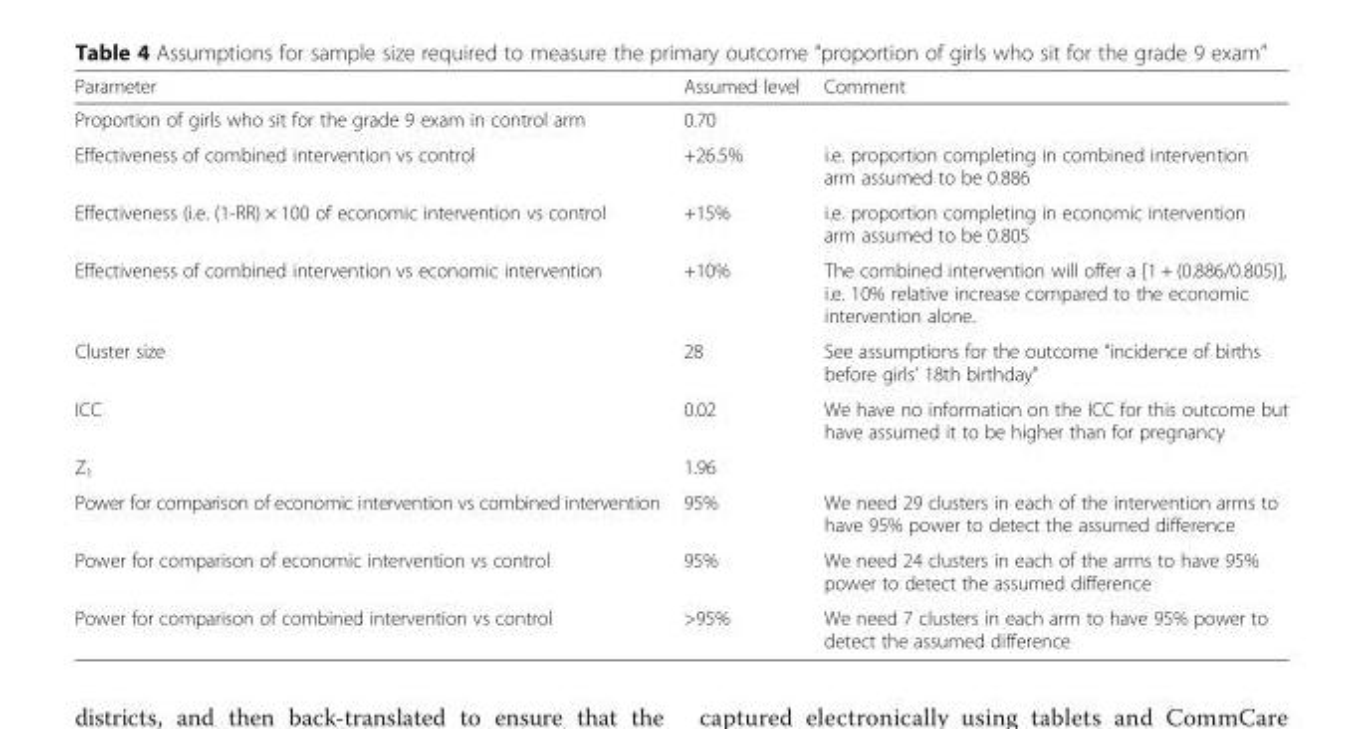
<table><thead><tr><td>Parameter</td><td>Assumed level</td><td>Comment</td></tr></thead><tbody><tr><td>Proportion of girls who sit for the grade 9 exam in control arm</td><td>0.70</td><td></td></tr><tr><td>Effectiveness of combined intervention vs control</td><td>+26.5%</td><td>i.e. proportion completing in combined intervention arm assumed to be 0.886</td></tr><tr><td>Effectiveness (i.e. (1-RR) × 100 of economic intervention vs control</td><td>+15%</td><td>i.e. proportion completing in economic intervention arm assumed to be 0.805</td></tr><tr><td>Effectiveness of combined intervention vs economic intervention</td><td>+10%</td><td>The combined intervention will offer a [1 + (0.886/0.805)], i.e. 10% relative increase compared to the economic intervention alone.</td></tr><tr><td>Cluster size</td><td>28</td><td>See assumptions for the outcome “incidence of births before girls’ 18th birthday”</td></tr><tr><td>ICC</td><td>0.02</td><td>We have no information on the ICC for this outcome but have assumed it to be higher than for pregnancy</td></tr><tr><td>Z<sub>1</sub></td><td>1.96</td><td></td></tr><tr><td>Power for comparison of economic intervention vs combined intervention</td><td>95%</td><td>We need 29 clusters in each of the intervention arms to have 95% power to detect the assumed difference</td></tr><tr><td>Power for comparison of economic intervention vs control</td><td>95%</td><td>We need 24 clusters in each of the arms to have 95% power to detect the assumed difference</td></tr><tr><td>Power for comparison of combined intervention vs control</td><td>&gt;95%</td><td>We need 7 clusters in each arm to have 95% power to detect the assumed difference</td></tr></tbody></table>